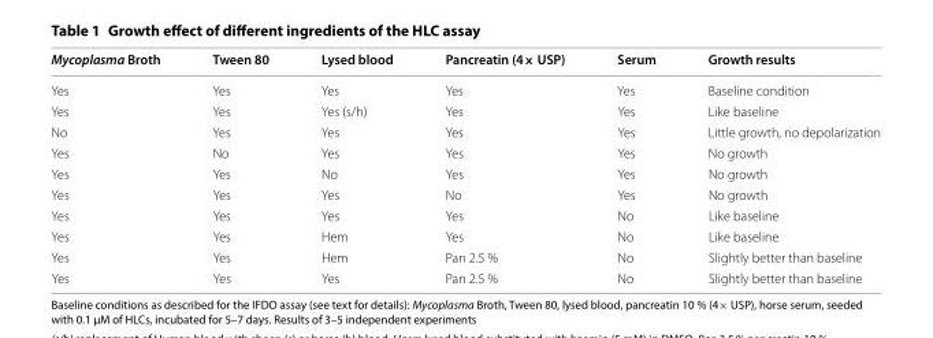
<table><thead><tr><td>Mycoplasma Broth</td><td>Tween 80</td><td>Lysed blood</td><td>Pancreatin (4× USP)</td><td>Serum</td><td>Growth results</td></tr></thead><tbody><tr><td>Yes</td><td>Yes</td><td>Yes</td><td>Yes</td><td>Yes</td><td>Baseline condition</td></tr><tr><td>Yes</td><td>Yes</td><td>Yes (s/h)</td><td>Yes</td><td>Yes</td><td>Like baseline</td></tr><tr><td>No</td><td>Yes</td><td>Yes</td><td>Yes</td><td>Yes</td><td>Little growth, no depolarization</td></tr><tr><td>Yes</td><td>No</td><td>Yes</td><td>Yes</td><td>Yes</td><td>No growth</td></tr><tr><td>Yes</td><td>Yes</td><td>No</td><td>Yes</td><td>Yes</td><td>No growth</td></tr><tr><td>Yes</td><td>Yes</td><td>Yes</td><td>No</td><td>Yes</td><td>No growth</td></tr><tr><td>Yes</td><td>Yes</td><td>Yes</td><td>Yes</td><td>No</td><td>Like baseline</td></tr><tr><td>Yes</td><td>Yes</td><td>Hem</td><td>Yes</td><td>No</td><td>Like baseline</td></tr><tr><td>Yes</td><td>Yes</td><td>Hem</td><td>Pan 2.5 %</td><td>No</td><td>Slightly better than baseline</td></tr><tr><td>Yes</td><td>Yes</td><td>Yes</td><td>Pan 2.5 %</td><td>No</td><td>Slightly better than baseline</td></tr></tbody></table>